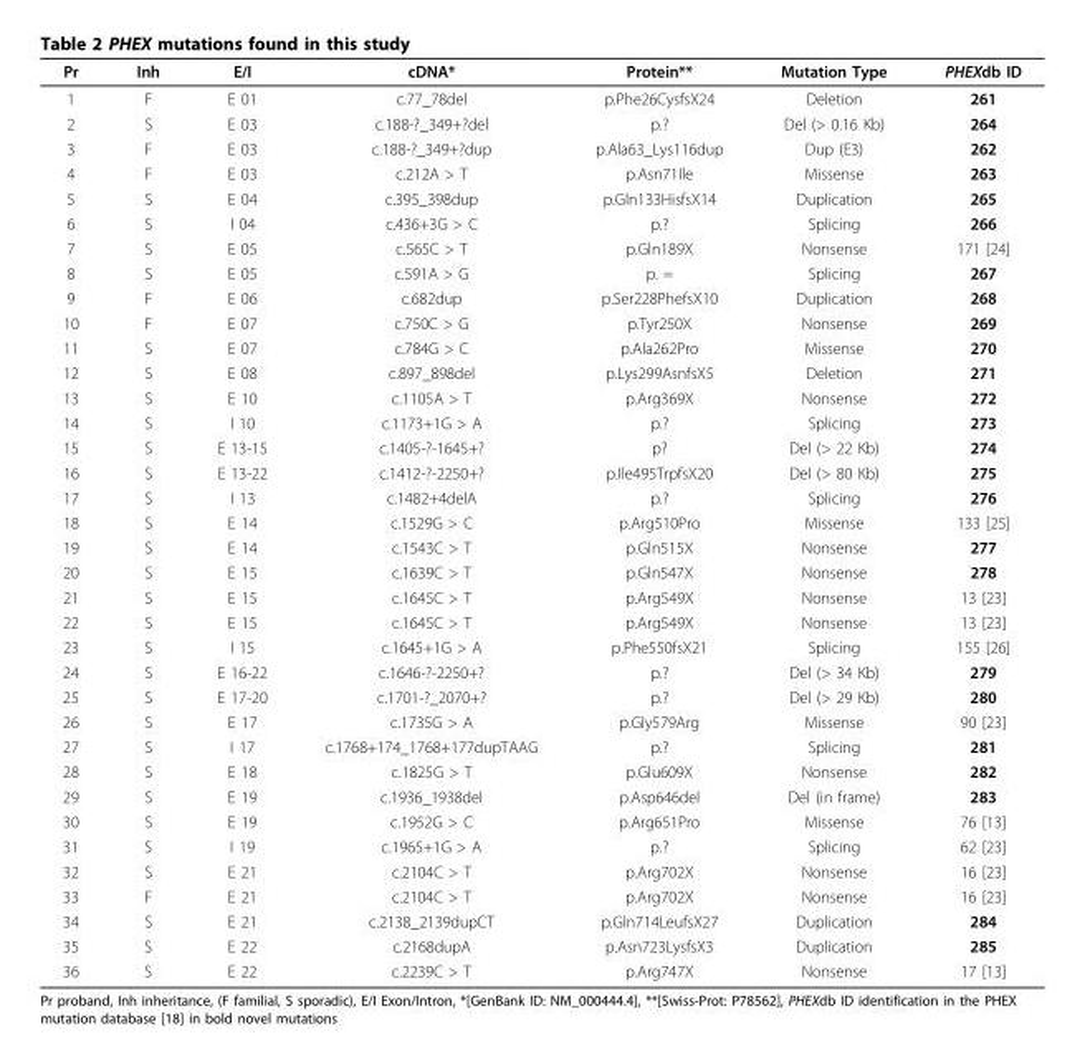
<table><thead><tr><td>Pr</td><td>Inh</td><td>E/I</td><td>cDNA*</td><td>Protein**</td><td>Mutation Type</td><td>PHEXdb ID</td></tr></thead><tbody><tr><td>1</td><td>F</td><td>E 01</td><td>c.77_78del</td><td>p.Phe26CysfsX24</td><td>Deletion</td><td>261</td></tr><tr><td>2</td><td>S</td><td>E 03</td><td>c.188-?_349+?del</td><td>p.?</td><td>Del (&gt; 0.16 Kb)</td><td>264</td></tr><tr><td>3</td><td>F</td><td>E 03</td><td>c.188-?_349+?dup</td><td>p.Ala63_Lys116dup</td><td>Dup (E3)</td><td>262</td></tr><tr><td>4</td><td>F</td><td>E 03</td><td>c.212A &gt; T</td><td>p.Asn71Ile</td><td>Missense</td><td>263</td></tr><tr><td>5</td><td>S</td><td>E 04</td><td>c.395_398dup</td><td>p.Gln133HisfsX14</td><td>Duplication</td><td>265</td></tr><tr><td>6</td><td>S</td><td>I 04</td><td>c.436+3G &gt; C</td><td>p.?</td><td>Splicing</td><td>266</td></tr><tr><td>7</td><td>S</td><td>E 05</td><td>c.565C &gt; T</td><td>p.Gln189X</td><td>Nonsense</td><td>171 [24]</td></tr><tr><td>8</td><td>S</td><td>E 05</td><td>c.591A &gt; G</td><td>p. =</td><td>Splicing</td><td>267</td></tr><tr><td>9</td><td>F</td><td>E 06</td><td>c.682dup</td><td>p.Ser228PhefsX10</td><td>Duplication</td><td>268</td></tr><tr><td>10</td><td>F</td><td>E 07</td><td>c.750C &gt; G</td><td>p.Tyr250X</td><td>Nonsense</td><td>269</td></tr><tr><td>11</td><td>S</td><td>E 07</td><td>c.784G &gt; C</td><td>p.Ala262Pro</td><td>Missense</td><td>270</td></tr><tr><td>12</td><td>S</td><td>E 08</td><td>c.897_898del</td><td>p.Lys299AsnfsX5</td><td>Deletion</td><td>271</td></tr><tr><td>13</td><td>S</td><td>E 10</td><td>c.1105A &gt; T</td><td>p.Arg369X</td><td>Nonsense</td><td>272</td></tr><tr><td>14</td><td>S</td><td>I 10</td><td>c.1173+1G &gt; A</td><td>p.?</td><td>Splicing</td><td>273</td></tr><tr><td>15</td><td>S</td><td>E 13-15</td><td>c.1405-?-1645+?</td><td>p?</td><td>Del (&gt; 22 Kb)</td><td>274</td></tr><tr><td>16</td><td>S</td><td>E 13-22</td><td>c.1412-?-2250+?</td><td>p.Ile495TrpfsX20</td><td>Del (&gt; 80 Kb)</td><td>275</td></tr><tr><td>17</td><td>S</td><td>I 13</td><td>c.1482+4delA</td><td>p.?</td><td>Splicing</td><td>276</td></tr><tr><td>18</td><td>S</td><td>E 14</td><td>c.1529G &gt; C</td><td>p.Arg510Pro</td><td>Missense</td><td>133 [25]</td></tr><tr><td>19</td><td>S</td><td>E 14</td><td>c.1543C &gt; T</td><td>p.Gln515X</td><td>Nonsense</td><td>277</td></tr><tr><td>20</td><td>S</td><td>E 15</td><td>c.1639C &gt; T</td><td>p.Gln547X</td><td>Nonsense</td><td>278</td></tr><tr><td>21</td><td>S</td><td>E 15</td><td>c.1645C &gt; T</td><td>p.Arg549X</td><td>Nonsense</td><td>13 [23]</td></tr><tr><td>22</td><td>S</td><td>E 15</td><td>c.1645C &gt; T</td><td>p.Arg549X</td><td>Nonsense</td><td>13 [23]</td></tr><tr><td>23</td><td>S</td><td>I 15</td><td>c.1645+1G &gt; A</td><td>p.Phe550fsX21</td><td>Splicing</td><td>155 [26]</td></tr><tr><td>24</td><td>S</td><td>E 16-22</td><td>c.1646-?-2250+?</td><td>p.?</td><td>Del (&gt; 34 Kb)</td><td>279</td></tr><tr><td>25</td><td>S</td><td>E 17-20</td><td>c.1701-?_2070+?</td><td>p.?</td><td>Del (&gt; 29 Kb)</td><td>280</td></tr><tr><td>26</td><td>S</td><td>E 17</td><td>c.1735G &gt; A</td><td>p.Gly579Arg</td><td>Missense</td><td>90 [23]</td></tr><tr><td>27</td><td>S</td><td>I 17</td><td>c.1768+174_1768+177dupTAAG</td><td>p.?</td><td>Splicing</td><td>281</td></tr><tr><td>28</td><td>S</td><td>E 18</td><td>c.1825G &gt; T</td><td>p.Glu609X</td><td>Nonsense</td><td>282</td></tr><tr><td>29</td><td>S</td><td>E 19</td><td>c.1936_1938del</td><td>p.Asp646del</td><td>Del (in frame)</td><td>283</td></tr><tr><td>30</td><td>S</td><td>E 19</td><td>c.1952G &gt; C</td><td>p.Arg651Pro</td><td>Missense</td><td>76 [13]</td></tr><tr><td>31</td><td>S</td><td>I 19</td><td>c.1965+1G &gt; A</td><td>p.?</td><td>Splicing</td><td>62 [23]</td></tr><tr><td>32</td><td>S</td><td>E 21</td><td>c.2104C &gt; T</td><td>p.Arg702X</td><td>Nonsense</td><td>16 [23]</td></tr><tr><td>33</td><td>F</td><td>E 21</td><td>c.2104C &gt; T</td><td>p.Arg702X</td><td>Nonsense</td><td>16 [23]</td></tr><tr><td>34</td><td>S</td><td>E 21</td><td>c.2138_2139dupCT</td><td>p.Gln714LeufsX27</td><td>Duplication</td><td>284</td></tr><tr><td>35</td><td>S</td><td>E 22</td><td>c.2168dupA</td><td>p.Asn723LysfsX3</td><td>Duplication</td><td>285</td></tr><tr><td>36</td><td>S</td><td>E 22</td><td>c.2239C &gt; T</td><td>p.Arg747X</td><td>Nonsense</td><td>17 [13]</td></tr></tbody></table>